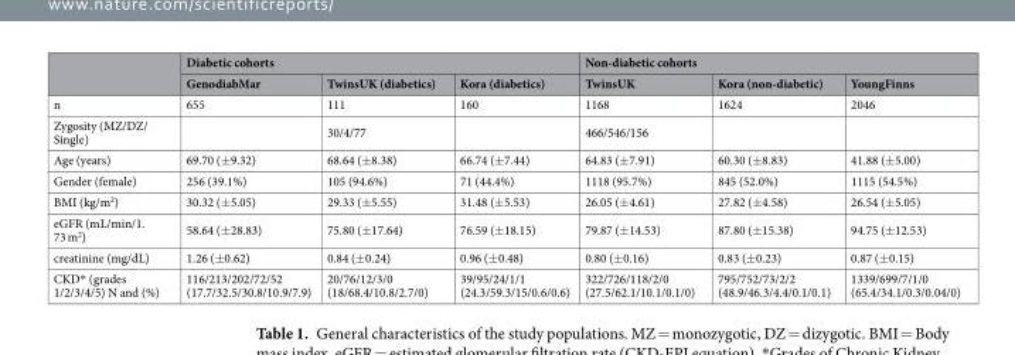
<table><thead><tr><td rowspan="2"></td><td colspan="3">Diabetic cohorts</td><td colspan="3">Non-diabetic cohorts</td></tr><tr><td>GenodiabMar</td><td>TwinsUK (diabetics)</td><td>Kora (diabetics)</td><td>TwinsUK</td><td>Kora (non-diabetic)</td><td>YoungFinns</td></tr></thead><tbody><tr><td>n</td><td>655</td><td>111</td><td>160</td><td>1168</td><td>1624</td><td>2046</td></tr><tr><td>Zygosity (MZ/DZ/ Single)</td><td></td><td>30/4/77</td><td></td><td>466/546/156</td><td></td><td></td></tr><tr><td>Age (years)</td><td>69.70 (±9.32)</td><td>68.64 (±8.38)</td><td>66.74 (±7.44)</td><td>64.83 (±7.91)</td><td>60.30 (±8.83)</td><td>41.88 (±5.00)</td></tr><tr><td>Gender (female)</td><td>256 (39.1%)</td><td>105 (94.6%)</td><td>71 (44.4%)</td><td>1118 (95.7%)</td><td>845 (52.0%)</td><td>1115 (54.5%)</td></tr><tr><td>BMI (kg/m<sup>2</sup>)</td><td>30.32 (±5.05)</td><td>29.33 (±5.55)</td><td>31.48 (±5.53)</td><td>26.05 (±4.61)</td><td>27.82 (±4.58)</td><td>26.54 (±5.05)</td></tr><tr><td>eGFR (mL/min/1. 73 m<sup>2</sup>)</td><td>58.64 (±28.83)</td><td>75.80 (±17.64)</td><td>76.59 (±18.15)</td><td>79.87 (±14.53)</td><td>87.80 (±15.38)</td><td>94.75 (±12.53)</td></tr><tr><td>creatinine (mg/dL)</td><td>1.26 (±0.62)</td><td>0.84 (±0.24)</td><td>0.96 (±0.48)</td><td>0.80 (±0.16)</td><td>0.83 (±0.23)</td><td>0.87 (±0.15)</td></tr><tr><td>CKD* (grades 1/2/3/4/5) N and (%)</td><td>116/213/202/72/52 (17.7/32.5/30.8/10.9/7.9)</td><td>20/76/12/3/0 (18/68.4/10.8/2.7/0)</td><td>39/95/24/1/1 (24.3/59.3/15/0.6/0.6)</td><td>322/726/118/2/0 (27.5/62.1/10.1/0.1/0)</td><td>795/752/73/2/2 (48.9/46.3/4.4/0.1/0.1)</td><td>1339/699/7/1/0 (65.4/34.1/0.3/0.04/0)</td></tr></tbody></table>